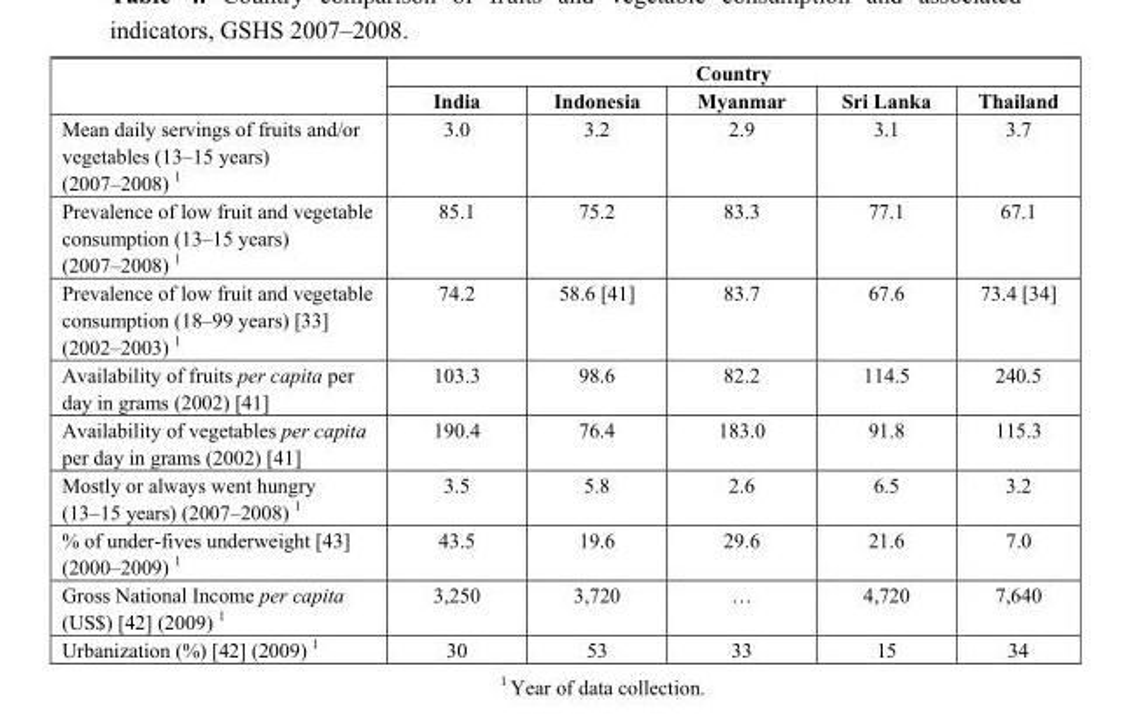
<table><thead><tr><td rowspan="2"></td><td colspan="5">Country</td></tr><tr><td>India</td><td>Indonesia</td><td>Myanmar</td><td>Sri Lanka</td><td>Thailand</td></tr></thead><tbody><tr><td>Mean daily servings of fruits and/or vegetables (13–15 years) (2007–2008) <sup>1</sup></td><td>3.0</td><td>3.2</td><td>2.9</td><td>3.1</td><td>3.7</td></tr><tr><td>Prevalence of low fruit and vegetable consumption (13–15 years) (2007–2008) <sup>1</sup></td><td>85.1</td><td>75.2</td><td>83.3</td><td>77.1</td><td>67.1</td></tr><tr><td>Prevalence of low fruit and vegetable consumption (18–99 years) [33] (2002–2003) <sup>1</sup></td><td>74.2</td><td>58.6 [41]</td><td>83.7</td><td>67.6</td><td>73.4 [34]</td></tr><tr><td>Availability of fruits per capita per day in grams (2002) [41]</td><td>103.3</td><td>98.6</td><td>82.2</td><td>114.5</td><td>240.5</td></tr><tr><td>Availability of vegetables per capita per day in grams (2002) [41]</td><td>190.4</td><td>76.4</td><td>183.0</td><td>91.8</td><td>115.3</td></tr><tr><td>Mostly or always went hungry (13–15 years) (2007–2008) <sup>1</sup></td><td>3.5</td><td>5.8</td><td>2.6</td><td>6.5</td><td>3.2</td></tr><tr><td>% of under-fives underweight [43] (2000–2009) <sup>1</sup></td><td>43.5</td><td>19.6</td><td>29.6</td><td>21.6</td><td>7.0</td></tr><tr><td>Gross National Income per capita (US$) [42] (2009) <sup>1</sup></td><td>3,250</td><td>3,720</td><td>…</td><td>4,720</td><td>7,640</td></tr><tr><td>Urbanization (%) [42] (2009) <sup>1</sup></td><td>30</td><td>53</td><td>33</td><td>15</td><td>34</td></tr></tbody></table>